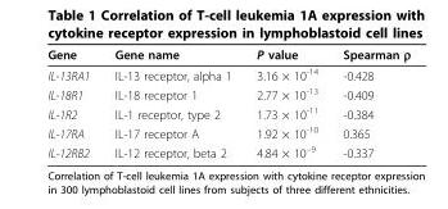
<table><thead><tr><td>Gene</td><td>Gene name</td><td>P value</td><td>Spearman</td></tr></thead><tbody><tr><td>IL-13RA1</td><td>IL-13 receptor, alpha 1</td><td>3.16 × 10<sup>-14</sup></td><td>-0.428</td></tr><tr><td>IL-18R1</td><td>IL-18 receptor 1</td><td>2.77 × 10<sup>-13</sup></td><td>-0.409</td></tr><tr><td>IL-1R2</td><td>IL-1 receptor, type 2</td><td>1.73 × 10<sup>-11</sup></td><td>-0.384</td></tr><tr><td>IL-17RA</td><td>IL-17 receptor A</td><td>1.92 × 10<sup>-10</sup></td><td>0.365</td></tr><tr><td>IL-12RB2</td><td>IL-12 receptor, beta 2</td><td>4.84 × 10–9</td><td>-0.337</td></tr></tbody></table>